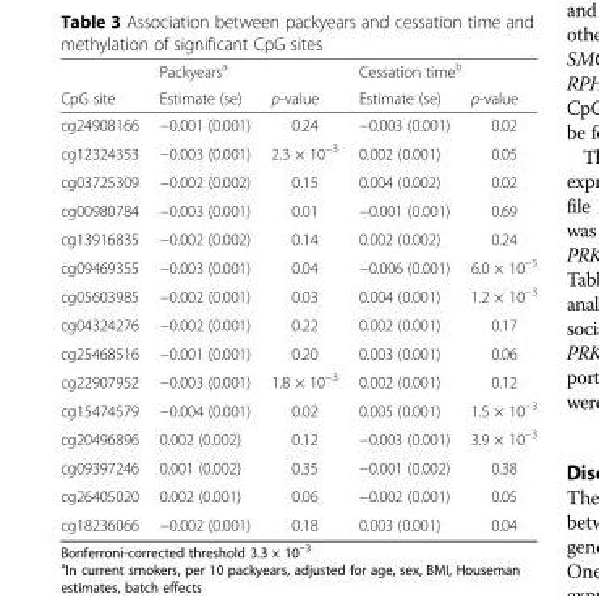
<table><thead><tr><td rowspan="2">CpG site</td><td rowspan="2">Packyears<sup>a</sup> Estimate (se)</td><td rowspan="2">p-value</td><td colspan="2">Cessation time<sup>b</sup></td></tr><tr><td>Estimate (se)</td><td>p-value</td></tr></thead><tbody><tr><td>cg24908166</td><td>−0.001 (0.001)</td><td>0.24</td><td>−0.003 (0.001)</td><td>0.02</td></tr><tr><td>cg12324353</td><td>−0.003 (0.001)</td><td>2.3 × 10<sup>−3</sup></td><td>0.002 (0.001)</td><td>0.05</td></tr><tr><td>cg03725309</td><td>−0.002 (0.002)</td><td>0.15</td><td>0.004 (0.002)</td><td>0.02</td></tr><tr><td>cg00980784</td><td>−0.003 (0.001)</td><td>0.01</td><td>−0.001 (0.001)</td><td>0.69</td></tr><tr><td>cg13916835</td><td>−0.002 (0.002)</td><td>0.14</td><td>0.002 (0.002)</td><td>0.24</td></tr><tr><td>cg09469355</td><td>−0.003 (0.001)</td><td>0.04</td><td>−0.006 (0.001)</td><td>6.0 × 10<sup>−5</sup></td></tr><tr><td>cg05603985</td><td>−0.002 (0.001)</td><td>0.03</td><td>0.004 (0.001)</td><td>1.2 × 10<sup>−3</sup></td></tr><tr><td>cg04324276</td><td>−0.002 (0.001)</td><td>0.22</td><td>0.002 (0.001)</td><td>0.17</td></tr><tr><td>cg25468516</td><td>−0.001 (0.001)</td><td>0.20</td><td>0.003 (0.001)</td><td>0.06</td></tr><tr><td>cg22907952</td><td>−0.003 (0.001)</td><td>1.8 × 10<sup>−3</sup></td><td>0.002 (0.001)</td><td>0.12</td></tr><tr><td>cg15474579</td><td>−0.004 (0.001)</td><td>0.02</td><td>0.005 (0.001)</td><td>1.5 × 10<sup>−3</sup></td></tr><tr><td>cg20496896</td><td>0.002 (0.002)</td><td>0.12</td><td>−0.003 (0.001)</td><td>3.9 × 10<sup>−3</sup></td></tr><tr><td>cg09397246</td><td>0.001 (0.002)</td><td>0.35</td><td>−0.001 (0.002)</td><td>0.38</td></tr><tr><td>cg26405020</td><td>0.002 (0.001)</td><td>0.06</td><td>−0.002 (0.001)</td><td>0.05</td></tr><tr><td>cg18236066</td><td>−0.002 (0.001)</td><td>0.18</td><td>0.003 (0.001)</td><td>0.04</td></tr></tbody></table>